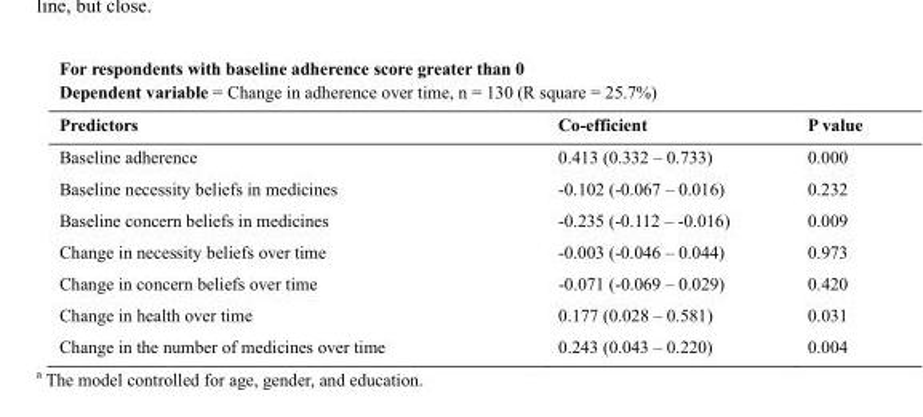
<table><thead><tr><td colspan="3">For respondents with baseline adherence score greater than 0 Dependent variable = Change in adherence over time, n = 130 (R square = 25.7%)</td></tr><tr><td>Predictors</td><td>Co-efficient</td><td>P value</td></tr></thead><tbody><tr><td>Baseline adherence</td><td>0.413 (0.332 – 0.733)</td><td>0.000</td></tr><tr><td>Baseline necessity beliefs in medicines</td><td>-0.102 (-0.067 – 0.016)</td><td>0.232</td></tr><tr><td>Baseline concern beliefs in medicines</td><td>-0.235 (-0.112 – -0.016)</td><td>0.009</td></tr><tr><td>Change in necessity beliefs over time</td><td>-0.003 (-0.046 – 0.044)</td><td>0.973</td></tr><tr><td>Change in concern beliefs over time</td><td>-0.071 (-0.069 – 0.029)</td><td>0.420</td></tr><tr><td>Change in health over time</td><td>0.177 (0.028 – 0.581)</td><td>0.031</td></tr><tr><td>Change in the number of medicines over time</td><td>0.243 (0.043 – 0.220)</td><td>0.004</td></tr></tbody></table>